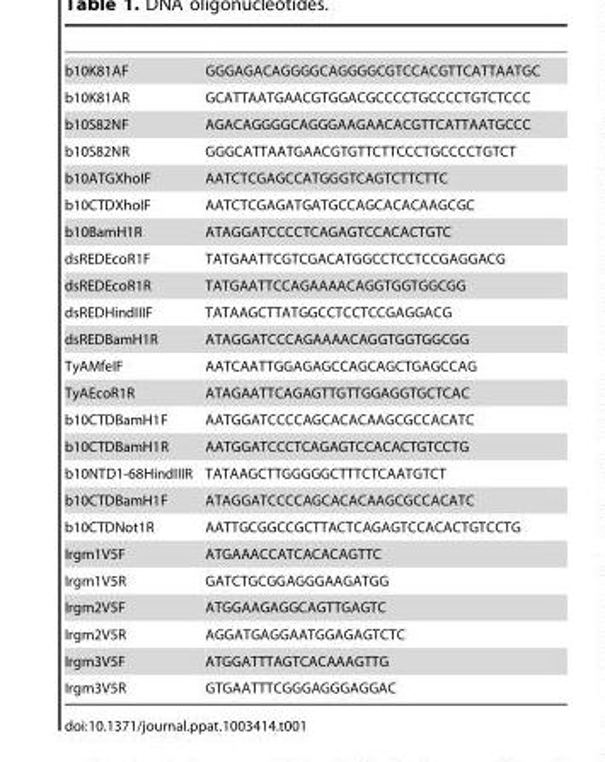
<table><tbody><tr><td>b10K81AF</td><td>GGGAGACAGGGGCAGGGGCGTCCACGTTCATTAATGC</td></tr><tr><td>b10K81AR</td><td>GCATTAATGAACGTGGACGCCCCTGCCCCTGTCTCCC</td></tr><tr><td>b10S82NF</td><td>AGACAGGGGCAGGGAAGAACACGTTCATTAATGCCC</td></tr><tr><td>b10S82NR</td><td>GGGCATTAATGAACGTGTTCTTCCCTGCCCCTGTCT</td></tr><tr><td>b10ATGXhoIF</td><td>AATCTCGAGCCATGGGTCAGTCTTCTTC</td></tr><tr><td>b10CTDXhoIF</td><td>AATCTCGAGATGATGCCAGCACACAAGCGC</td></tr><tr><td>b10BamH1R</td><td>ATAGGATCCCCTCAGAGTCCACACTGTC</td></tr><tr><td>dsREDEcoR1F</td><td>TATGAATTCGTCGACATGGCCTCCTCCGAGGACG</td></tr><tr><td>dsREDEcoR1R</td><td>TATGAATTCCAGAAAACAGGTGGTGGCGG</td></tr><tr><td>dsREDHindIIIF</td><td>TATAAGCTTATGGCCTCCTCCGAGGACG</td></tr><tr><td>dsREDBamH1R</td><td>ATAGGATCCCAGAAAACAGGTGGTGGCGG</td></tr><tr><td>TyAMfeIF</td><td>AATCAATTGGAGAGCCAGCAGCTGAGCCAG</td></tr><tr><td>TyAEcoR1R</td><td>ATAGAATTCAGAGTTGTTGGAGGTGCTCAC</td></tr><tr><td>b10CTDBamH1F</td><td>AATGGATCCCCAGCACACAAGCGCCACATC</td></tr><tr><td>b10CTDBamH1R</td><td>AATGGATCCCTCAGAGTCCACACTGTCCTG</td></tr><tr><td>b10NTD1-68HindIIIR</td><td>TATAAGCTTGGGGGCTTTCTCAATGTCT</td></tr><tr><td>b10CTDBamH1F</td><td>ATAGGATCCCCAGCACACAAGCGCCACATC</td></tr><tr><td>b10CTDNot1R</td><td>AATTGCGGCCGCTTACTCAGAGTCCACACTGTCCTG</td></tr><tr><td>Irgm1V5F</td><td>ATGAAACCATCACACAGTTC</td></tr><tr><td>Irgm1V5R</td><td>GATCTGCGGAGGGAAGATGG</td></tr><tr><td>Irgm2V5F</td><td>ATGGAAGAGGCAGTTGAGTC</td></tr><tr><td>Irgm2V5R</td><td>AGGATGAGGAATGGAGAGTCTC</td></tr><tr><td>Irgm3V5F</td><td>ATGGATTTAGTCACAAAGTTG</td></tr><tr><td>Irgm3V5R</td><td>GTGAATTTCGGGAGGGAGGAC</td></tr></tbody></table>